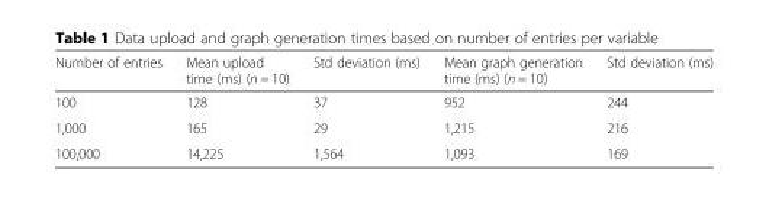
<table><thead><tr><td>Number of entries</td><td>Mean upload time (ms) (n = 10)</td><td>Std deviation (ms)</td><td>Mean graph generation time (ms) (n = 10)</td><td>Std deviation (ms)</td></tr></thead><tbody><tr><td>100</td><td>128</td><td>37</td><td>952</td><td>244</td></tr><tr><td>1,000</td><td>165</td><td>29</td><td>1,215</td><td>216</td></tr><tr><td>100,000</td><td>14,225</td><td>1,564</td><td>1,093</td><td>169</td></tr></tbody></table>